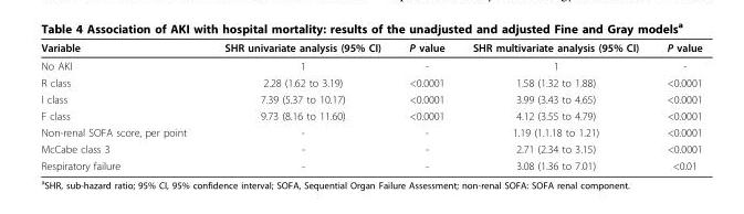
<table><thead><tr><td>Variable</td><td>SHR univariate analysis (95% CI)</td><td>P value</td><td>SHR multivariate analysis (95% CI)</td><td>P value</td></tr></thead><tbody><tr><td>No AKI</td><td>1</td><td>-</td><td>1</td><td>-</td></tr><tr><td>R class</td><td>2.28 (1.62 to 3.19)</td><td>&lt;0.0001</td><td>1.58 (1.32 to 1.88)</td><td>&lt;0.0001</td></tr><tr><td>I class</td><td>7.39 (5.37 to 10.17)</td><td>&lt;0.0001</td><td>3.99 (3.43 to 4.65)</td><td>&lt;0.0001</td></tr><tr><td>F class</td><td>9.73 (8.16 to 11.60)</td><td>&lt;0.0001</td><td>4.12 (3.55 to 4.79)</td><td>&lt;0.0001</td></tr><tr><td>Non-renal SOFA score, per point</td><td>-</td><td>-</td><td>1.19 (1.1.18 to 1.21)</td><td>&lt;0.0001</td></tr><tr><td>McCabe class 3</td><td>-</td><td>-</td><td>2.71 (2.34 to 3.15)</td><td>&lt;0.0001</td></tr><tr><td>Respiratory failure</td><td>-</td><td>-</td><td>3.08 (1.36 to 7.01)</td><td>&lt;0.01</td></tr></tbody></table>